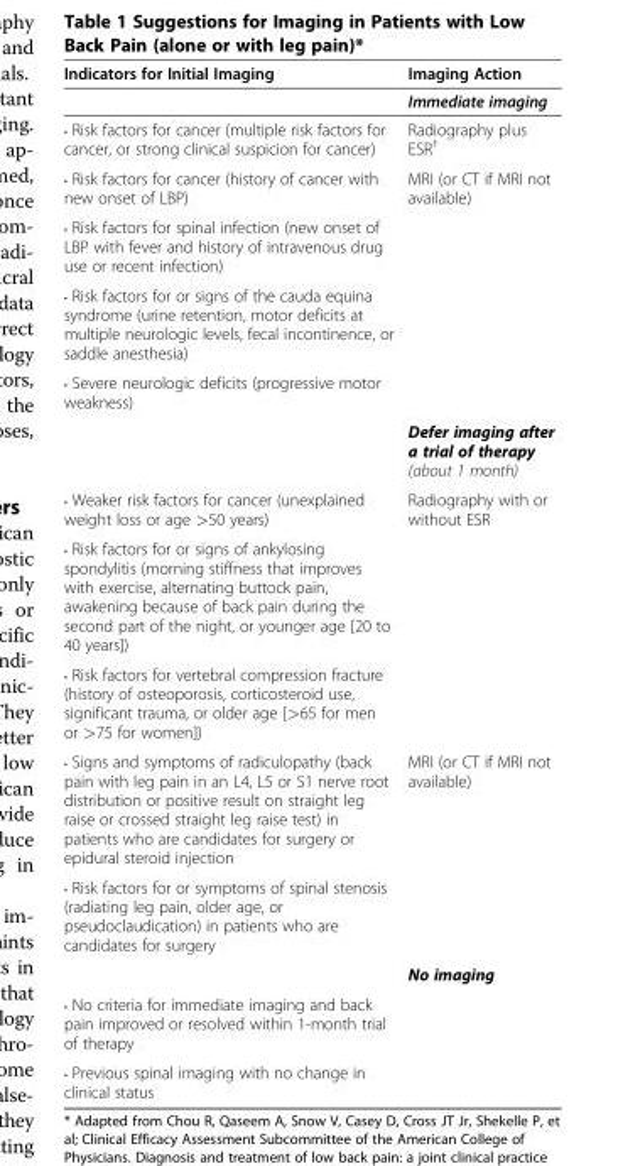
<table><thead><tr><td rowspan="2">Indicators for Initial Imaging</td><td rowspan="2">Imaging Action Immediate imaging</td></tr><tr></tr></thead><tbody><tr><td>• Risk factors for cancer (multiple risk factors for cancer, or strong clinical suspicion for cancer)</td><td>Radiography plus ESR†</td></tr><tr><td>• Risk factors for cancer (history of cancer with new onset of LBP)</td><td rowspan="4">MRI (or CT if MRI not available)</td></tr><tr><td>• Risk factors for spinal infection (new onset of LBP with fever and history of intravenous drug use or recent infection)</td></tr><tr><td>• Risk factors for or signs of the cauda equina syndrome (urine retention, motor deficits at multiple neurologic levels, fecal incontinence, or saddle anesthesia)</td></tr><tr><td rowspan="2">• Severe neurologic deficits (progressive motor weakness)</td></tr><tr><td>Defer imaging after a trial of therapy (about 1 month)</td></tr><tr><td>• Weaker risk factors for cancer (unexplained weight loss or age &gt;50 years)</td><td rowspan="3">Radiography with or without ESR</td></tr><tr><td>• Risk factors for or signs of ankylosing spondylitis (morning stiffness that improves with exercise, alternating buttock pain, awakening because of back pain during the second part of the night, or younger age [20 to 40 years])</td></tr><tr><td>• Risk factors for vertebral compression fracture (history of osteoporosis, corticosteroid use, significant trauma, or older age [&gt;65 for men or &gt;75 for women])</td></tr><tr><td>• Signs and symptoms of radiculopathy (back pain with leg pain in an L4, L5 or S1 nerve root distribution or positive result on straight leg raise or crossed straight leg raise test) in patients who are candidates for surgery or epidural steroid injection</td><td rowspan="2">MRI (or CT if MRI not available)</td></tr><tr><td rowspan="2">• Risk factors for or symptoms of spinal stenosis (radiating leg pain, older age, or pseudoclaudication) in patients who are candidates for surgery</td></tr><tr><td>No imaging</td></tr><tr><td colspan="2">• No criteria for immediate imaging and back pain improved or resolved within 1-month trial of therapy</td></tr><tr><td>• Previous spinal imaging with no change in clinical status</td><td></td></tr></tbody></table>